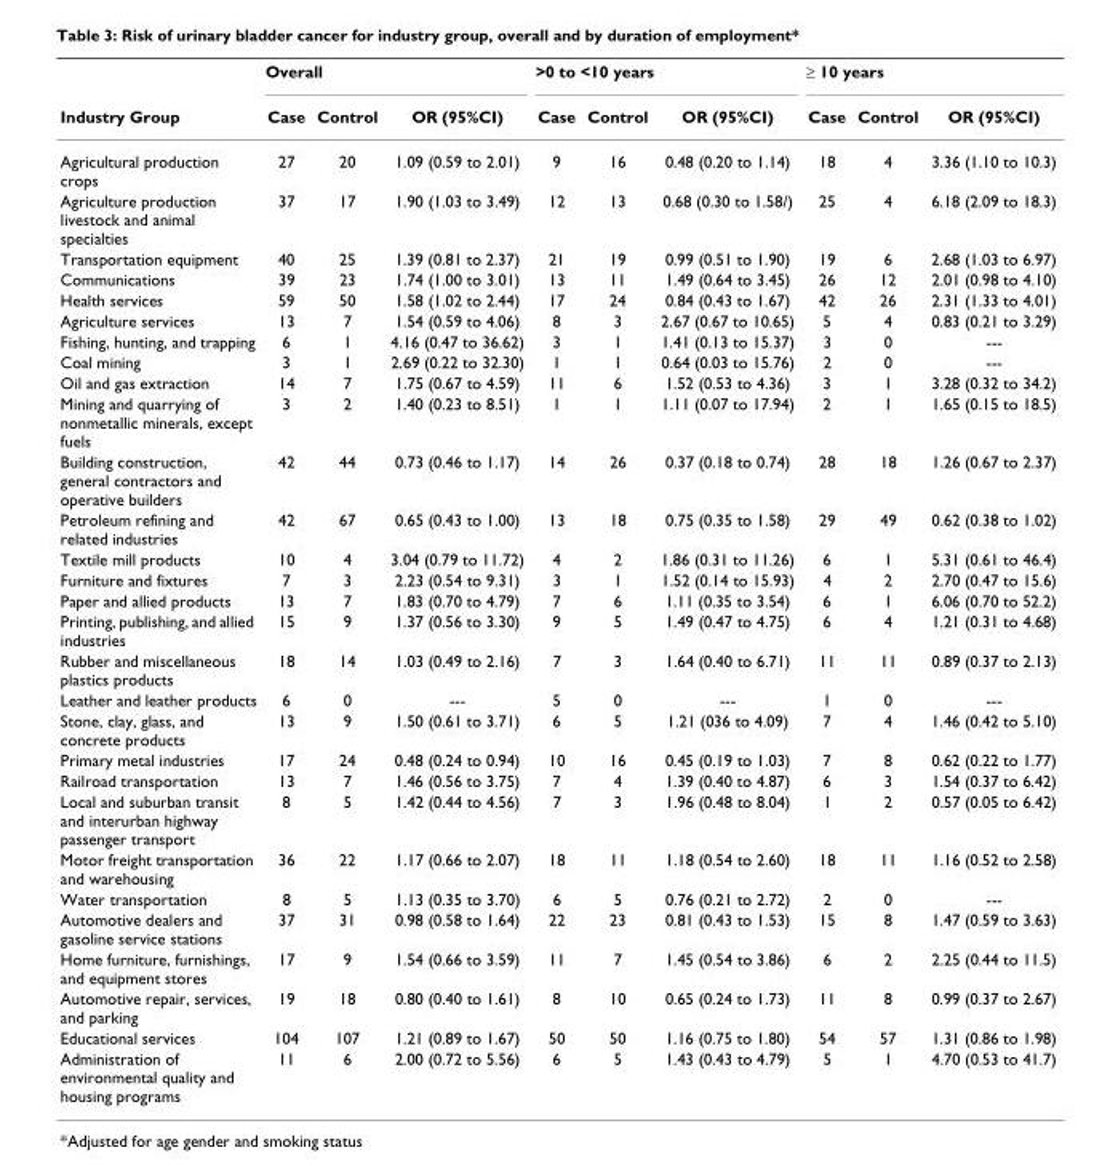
<table><thead><tr><td rowspan="2">Industry Group</td><td colspan="3">Overall</td><td colspan="3">&gt;0 to &lt;10 years</td><td colspan="3">≥ 10 years</td></tr><tr><td>Case</td><td>Control</td><td>OR (95%CI)</td><td>Case</td><td>Control</td><td>OR (95%CI)</td><td>Case</td><td>Control</td><td>OR (95%CI)</td></tr></thead><tbody><tr><td>Agricultural production crops</td><td>27</td><td>20</td><td>1.09 (0.59 to 2.01)</td><td>9</td><td>16</td><td>0.48 (0.20 to 1.14)</td><td>18</td><td>4</td><td>3.36 (1.10 to 10.3)</td></tr><tr><td>Agriculture production livestock and animal specialties</td><td>37</td><td>17</td><td>1.90 (1.03 to 3.49)</td><td>12</td><td>13</td><td>0.68 (0.30 to 1.58/)</td><td>25</td><td>4</td><td>6.18 (2.09 to 18.3)</td></tr><tr><td>Transportation equipment</td><td>40</td><td>25</td><td>1.39 (0.81 to 2.37)</td><td>21</td><td>19</td><td>0.99 (0.51 to 1.90)</td><td>19</td><td>6</td><td>2.68 (1.03 to 6.97)</td></tr><tr><td>Communications</td><td>39</td><td>23</td><td>1.74 (1.00 to 3.01)</td><td>13</td><td>11</td><td>1.49 (0.64 to 3.45)</td><td>26</td><td>12</td><td>2.01 (0.98 to 4.10)</td></tr><tr><td>Health services</td><td>59</td><td>50</td><td>1.58 (1.02 to 2.44)</td><td>17</td><td>24</td><td>0.84 (0.43 to 1.67)</td><td>42</td><td>26</td><td>2.31 (1.33 to 4.01)</td></tr><tr><td>Agriculture services</td><td>13</td><td>7</td><td>1.54 (0.59 to 4.06)</td><td>8</td><td>3</td><td>2.67 (0.67 to 10.65)</td><td>5</td><td>4</td><td>0.83 (0.21 to 3.29)</td></tr><tr><td>Fishing, hunting, and trapping</td><td>6</td><td>1</td><td>4.16 (0.47 to 36.62)</td><td>3</td><td>1</td><td>1.41 (0.13 to 15.37)</td><td>3</td><td>0</td><td>---</td></tr><tr><td>Coal mining</td><td>3</td><td>1</td><td>2.69 (0.22 to 32.30)</td><td>1</td><td>1</td><td>0.64 (0.03 to 15.76)</td><td>2</td><td>0</td><td>---</td></tr><tr><td>Oil and gas extraction</td><td>14</td><td>7</td><td>1.75 (0.67 to 4.59)</td><td>11</td><td>6</td><td>1.52 (0.53 to 4.36)</td><td>3</td><td>1</td><td>3.28 (0.32 to 34.2)</td></tr><tr><td>Mining and quarrying of nonmetallic minerals, except fuels</td><td>3</td><td>2</td><td>1.40 (0.23 to 8.51)</td><td>1</td><td>1</td><td>1.11 (0.07 to 17.94)</td><td>2</td><td>1</td><td>1.65 (0.15 to 18.5)</td></tr><tr><td>Building construction, general contractors and operative builders</td><td>42</td><td>44</td><td>0.73 (0.46 to 1.17)</td><td>14</td><td>26</td><td>0.37 (0.18 to 0.74)</td><td>28</td><td>18</td><td>1.26 (0.67 to 2.37)</td></tr><tr><td>Petroleum refining and related industries</td><td>42</td><td>67</td><td>0.65 (0.43 to 1.00)</td><td>13</td><td>18</td><td>0.75 (0.35 to 1.58)</td><td>29</td><td>49</td><td>0.62 (0.38 to 1.02)</td></tr><tr><td>Textile mill products</td><td>10</td><td>4</td><td>3.04 (0.79 to 11.72)</td><td>4</td><td>2</td><td>1.86 (0.31 to 11.26)</td><td>6</td><td>1</td><td>5.31 (0.61 to 46.4)</td></tr><tr><td>Furniture and fixtures</td><td>7</td><td>3</td><td>2.23 (0.54 to 9.31)</td><td>3</td><td>1</td><td>1.52 (0.14 to 15.93)</td><td>4</td><td>2</td><td>2.70 (0.47 to 15.6)</td></tr><tr><td>Paper and allied products</td><td>13</td><td>7</td><td>1.83 (0.70 to 4.79)</td><td>7</td><td>6</td><td>1.11 (0.35 to 3.54)</td><td>6</td><td>1</td><td>6.06 (0.70 to 52.2)</td></tr><tr><td>Printing, publishing, and allied industries</td><td>15</td><td>9</td><td>1.37 (0.56 to 3.30)</td><td>9</td><td>5</td><td>1.49 (0.47 to 4.75)</td><td>6</td><td>4</td><td>1.21 (0.31 to 4.68)</td></tr><tr><td>Rubber and miscellaneous plastics products</td><td>18</td><td>14</td><td>1.03 (0.49 to 2.16)</td><td>7</td><td>3</td><td>1.64 (0.40 to 6.71)</td><td>11</td><td>11</td><td>0.89 (0.37 to 2.13)</td></tr><tr><td>Leather and leather products</td><td>6</td><td>0</td><td>---</td><td>5</td><td>0</td><td>---</td><td>1</td><td>0</td><td>---</td></tr><tr><td>Stone, clay, glass, and concrete products</td><td>13</td><td>9</td><td>1.50 (0.61 to 3.71)</td><td>6</td><td>5</td><td>1.21 (036 to 4.09)</td><td>7</td><td>4</td><td>1.46 (0.42 to 5.10)</td></tr><tr><td>Primary metal industries</td><td>17</td><td>24</td><td>0.48 (0.24 to 0.94)</td><td>10</td><td>16</td><td>0.45 (0.19 to 1.03)</td><td>7</td><td>8</td><td>0.62 (0.22 to 1.77)</td></tr><tr><td>Railroad transportation</td><td>13</td><td>7</td><td>1.46 (0.56 to 3.75)</td><td>7</td><td>4</td><td>1.39 (0.40 to 4.87)</td><td>6</td><td>3</td><td>1.54 (0.37 to 6.42)</td></tr><tr><td>Local and suburban transit and interurban highway passenger transport</td><td>8</td><td>5</td><td>1.42 (0.44 to 4.56)</td><td>7</td><td>3</td><td>1.96 (0.48 to 8.04)</td><td>1</td><td>2</td><td>0.57 (0.05 to 6.42)</td></tr><tr><td>Motor freight transportation and warehousing</td><td>36</td><td>22</td><td>1.17 (0.66 to 2.07)</td><td>18</td><td>11</td><td>1.18 (0.54 to 2.60)</td><td>18</td><td>11</td><td>1.16 (0.52 to 2.58)</td></tr><tr><td>Water transportation</td><td>8</td><td>5</td><td>1.13 (0.35 to 3.70)</td><td>6</td><td>5</td><td>0.76 (0.21 to 2.72)</td><td>2</td><td>0</td><td>---</td></tr><tr><td>Automotive dealers and gasoline service stations</td><td>37</td><td>31</td><td>0.98 (0.58 to 1.64)</td><td>22</td><td>23</td><td>0.81 (0.43 to 1.53)</td><td>15</td><td>8</td><td>1.47 (0.59 to 3.63)</td></tr><tr><td>Home furniture, furnishings, and equipment stores</td><td>17</td><td>9</td><td>1.54 (0.66 to 3.59)</td><td>11</td><td>7</td><td>1.45 (0.54 to 3.86)</td><td>6</td><td>2</td><td>2.25 (0.44 to 11.5)</td></tr><tr><td>Automotive repair, services, and parking</td><td>19</td><td>18</td><td>0.80 (0.40 to 1.61)</td><td>8</td><td>10</td><td>0.65 (0.24 to 1.73)</td><td>11</td><td>8</td><td>0.99 (0.37 to 2.67)</td></tr><tr><td>Educational services</td><td>104</td><td>107</td><td>1.21 (0.89 to 1.67)</td><td>50</td><td>50</td><td>1.16 (0.75 to 1.80)</td><td>54</td><td>57</td><td>1.31 (0.86 to 1.98)</td></tr><tr><td>Administration of environmental quality and housing programs</td><td>11</td><td>6</td><td>2.00 (0.72 to 5.56)</td><td>6</td><td>5</td><td>1.43 (0.43 to 4.79)</td><td>5</td><td>1</td><td>4.70 (0.53 to 41.7)</td></tr></tbody></table>